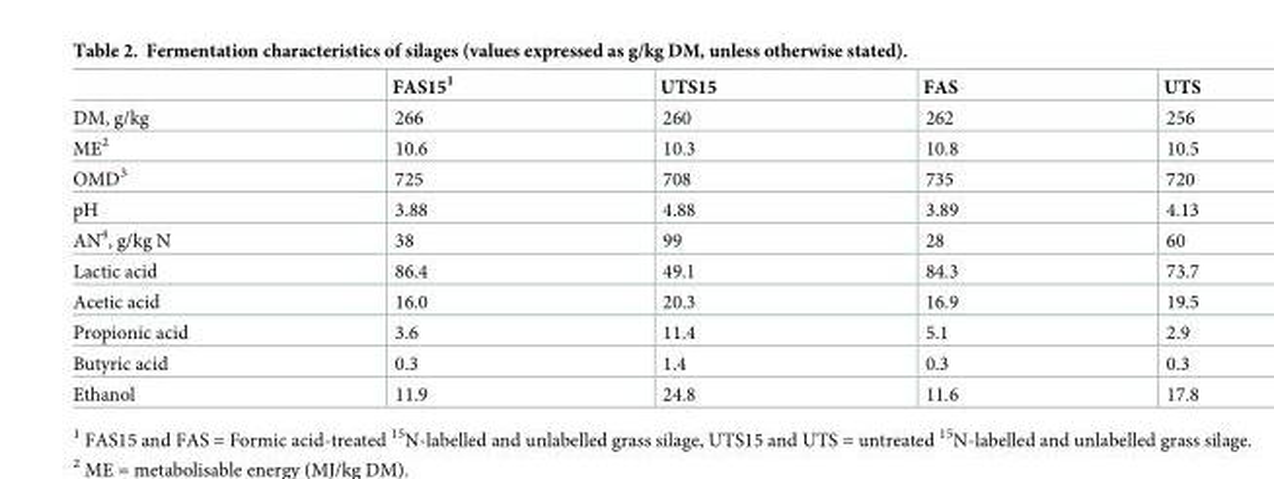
<table><thead><tr><td></td><td>FAS15<sup>1</sup></td><td>UTS15</td><td>FAS</td><td>UTS</td></tr></thead><tbody><tr><td>DM, g/kg</td><td>266</td><td>260</td><td>262</td><td>256</td></tr><tr><td>ME<sup>2</sup></td><td>10.6</td><td>10.3</td><td>10.8</td><td>10.5</td></tr><tr><td>OMD<sup>3</sup></td><td>725</td><td>708</td><td>735</td><td>720</td></tr><tr><td>pH</td><td>3.88</td><td>4.88</td><td>3.89</td><td>4.13</td></tr><tr><td>AN<sup>4</sup>, g/kg N</td><td>38</td><td>99</td><td>28</td><td>60</td></tr><tr><td>Lactic acid</td><td>86.4</td><td>49.1</td><td>84.3</td><td>73.7</td></tr><tr><td>Acetic acid</td><td>16.0</td><td>20.3</td><td>16.9</td><td>19.5</td></tr><tr><td>Propionic acid</td><td>3.6</td><td>11.4</td><td>5.1</td><td>2.9</td></tr><tr><td>Butyric acid</td><td>0.3</td><td>1.4</td><td>0.3</td><td>0.3</td></tr><tr><td>Ethanol</td><td>11.9</td><td>24.8</td><td>11.6</td><td>17.8</td></tr></tbody></table>